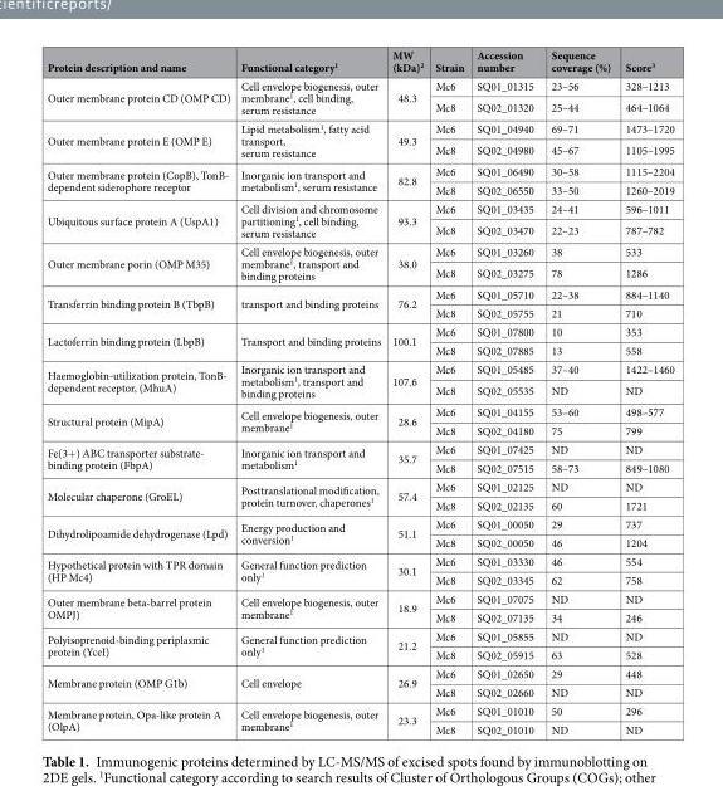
<table><thead><tr><td>Protein description and name</td><td>Functional category<sup>1</sup></td><td>MW (kDa)<sup>2</sup></td><td>Strain</td><td>Accession number</td><td>Sequence coverage (%)</td><td>Score<sup>3</sup></td></tr></thead><tbody><tr><td rowspan="2">Outer membrane protein CD (OMP CD)</td><td rowspan="2">Cell envelope biogenesis, outer membrane<sup>1</sup>, cell binding, serum resistance</td><td rowspan="2">48.3</td><td>Mc6</td><td>SQ01_01315</td><td>23–56</td><td>328–1213</td></tr><tr><td>Mc8</td><td>SQ02_01320</td><td>25–44</td><td>464–1064</td></tr><tr><td rowspan="2">Outer membrane protein E (OMP E)</td><td rowspan="2">Lipid metabolism<sup>1</sup>, fatty acid transport, serum resistance</td><td rowspan="2">49.3</td><td>Mc6</td><td>SQ01_04940</td><td>69–71</td><td>1473–1720</td></tr><tr><td>Mc8</td><td>SQ02_04980</td><td>45–67</td><td>1105–1995</td></tr><tr><td rowspan="2">Outer membrane protein (CopB), TonB- dependent siderophore receptor</td><td rowspan="2">Inorganic ion transport and metabolism<sup>1</sup>, serum resistance</td><td rowspan="2">82.8</td><td>Mc6</td><td>SQ01_06490</td><td>30–58</td><td>1115–2204</td></tr><tr><td>Mc8</td><td>SQ02_06550</td><td>33–50</td><td>1260–2019</td></tr><tr><td rowspan="2">Ubiquitous surface protein A (UspA1)</td><td rowspan="2">Cell division and chromosome partitioning<sup>1</sup>, cell binding, serum resistance</td><td rowspan="2">93.3</td><td>Mc6</td><td>SQ01_03435</td><td>24–41</td><td>596–1011</td></tr><tr><td>Mc8</td><td>SQ02_03470</td><td>22–23</td><td>787–782</td></tr><tr><td rowspan="2">Outer membrane porin (OMP M35)</td><td rowspan="2">Cell envelope biogenesis, outer membrane<sup>1</sup>, transport and binding proteins</td><td rowspan="2">38.0</td><td>Mc6</td><td>SQ01_03260</td><td>38</td><td>533</td></tr><tr><td>Mc8</td><td>SQ02_03275</td><td>78</td><td>1286</td></tr><tr><td rowspan="2">Transferrin binding protein B (TbpB)</td><td rowspan="2">transport and binding proteins</td><td rowspan="2">76.2</td><td>Mc6</td><td>SQ01_05710</td><td>22–38</td><td>884–1140</td></tr><tr><td>Mc8</td><td>SQ02_05755</td><td>21</td><td>710</td></tr><tr><td rowspan="2">Lactoferrin binding protein (LbpB)</td><td rowspan="2">Transport and binding proteins</td><td rowspan="2">100.1</td><td>Mc6</td><td>SQ01_07800</td><td>10</td><td>353</td></tr><tr><td>Mc8</td><td>SQ02_07885</td><td>13</td><td>558</td></tr><tr><td rowspan="2">Haemoglobin-utilization protein, TonB- dependent receptor, (MhuA)</td><td rowspan="2">Inorganic ion transport and metabolism<sup>1</sup>, transport and binding proteins</td><td rowspan="2">107.6</td><td>Mc6</td><td>SQ01_05485</td><td>37–40</td><td>1422–1460</td></tr><tr><td>Mc8</td><td>SQ02_05535</td><td>ND</td><td>ND</td></tr><tr><td rowspan="2">Structural protein (MipA)</td><td rowspan="2">Cell envelope biogenesis, outer membrane<sup>1</sup></td><td rowspan="2">28.6</td><td>Mc6</td><td>SQ01_04155</td><td>53–60</td><td>498–577</td></tr><tr><td>Mc8</td><td>SQ02_04180</td><td>75</td><td>799</td></tr><tr><td rowspan="2">Fe(3+) ABC transporter substrate- binding protein (FbpA)</td><td rowspan="2">Inorganic ion transport and metabolism<sup>1</sup></td><td rowspan="2">35.7</td><td>Mc6</td><td>SQ01_07425</td><td>ND</td><td>ND</td></tr><tr><td>Mc8</td><td>SQ02_07515</td><td>58–73</td><td>849–1080</td></tr><tr><td rowspan="2">Molecular chaperone (GroEL)</td><td rowspan="2">Posttranslational modification, protein turnover, chaperones<sup>1</sup></td><td rowspan="2">57.4</td><td>Mc6</td><td>SQ01_02125</td><td>ND</td><td>ND</td></tr><tr><td>Mc8</td><td>SQ02_02135</td><td>60</td><td>1721</td></tr><tr><td rowspan="2">Dihydrolipoamide dehydrogenase (Lpd)</td><td rowspan="2">Energy production and conversion<sup>1</sup></td><td rowspan="2">51.1</td><td>Mc6</td><td>SQ01_00050</td><td>29</td><td>737</td></tr><tr><td>Mc8</td><td>SQ02_00050</td><td>46</td><td>1204</td></tr><tr><td rowspan="2">Hypothetical protein with TPR domain (HP Mc4)</td><td rowspan="2">General function prediction only<sup>1</sup></td><td rowspan="2">30.1</td><td>Mc6</td><td>SQ01_03330</td><td>46</td><td>554</td></tr><tr><td>Mc8</td><td>SQ02_03345</td><td>62</td><td>758</td></tr><tr><td rowspan="2">Outer membrane beta-barrel protein OMPJ)</td><td rowspan="2">Cell envelope biogenesis, outer membrane<sup>1</sup></td><td rowspan="2">18.9</td><td>Mc6</td><td>SQ01_07075</td><td>ND</td><td>ND</td></tr><tr><td>Mc8</td><td>SQ02_07135</td><td>34</td><td>246</td></tr><tr><td rowspan="2">Polyisoprenoid-binding periplasmic protein (YceI)</td><td rowspan="2">General function prediction only<sup>1</sup></td><td rowspan="2">21.2</td><td>Mc6</td><td>SQ01_05855</td><td>ND</td><td>ND</td></tr><tr><td>Mc8</td><td>SQ02_05915</td><td>63</td><td>528</td></tr><tr><td rowspan="2">Membrane protein (OMP G1b)</td><td rowspan="2">Cell envelope</td><td rowspan="2">26.9</td><td>Mc6</td><td>SQ01_02650</td><td>29</td><td>448</td></tr><tr><td>Mc8</td><td>SQ02_02660</td><td>ND</td><td>ND</td></tr><tr><td rowspan="2">Membrane protein, Opa-like protein A (OlpA)</td><td rowspan="2">Cell envelope biogenesis, outer membrane<sup>1</sup></td><td rowspan="2">23.3</td><td>Mc6</td><td>SQ01_01010</td><td>50</td><td>296</td></tr><tr><td>Mc8</td><td>SQ02_01010</td><td>ND</td><td>ND</td></tr></tbody></table>